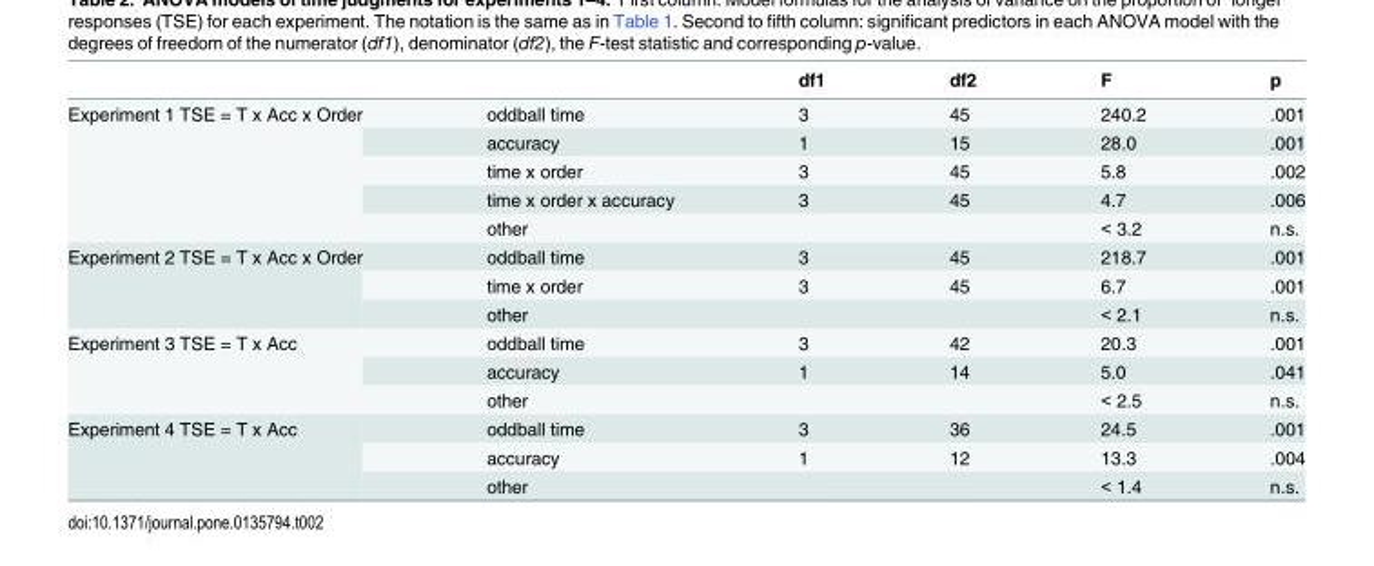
<table><thead><tr><td></td><td></td><td>df1</td><td>df2</td><td>F</td><td>p</td></tr></thead><tbody><tr><td rowspan="5">Experiment 1 TSE = T x Acc x Order</td><td>oddball time</td><td>3</td><td>45</td><td>240.2</td><td>.001</td></tr><tr><td>accuracy</td><td>1</td><td>15</td><td>28.0</td><td>.001</td></tr><tr><td>time x order</td><td>3</td><td>45</td><td>5.8</td><td>.002</td></tr><tr><td>time x order x accuracy</td><td>3</td><td>45</td><td>4.7</td><td>.006</td></tr><tr><td>other</td><td></td><td></td><td>&lt; 3.2</td><td>n.s.</td></tr><tr><td rowspan="3">Experiment 2 TSE = T x Acc x Order</td><td>oddball time</td><td>3</td><td>45</td><td>218.7</td><td>.001</td></tr><tr><td>time x order</td><td>3</td><td>45</td><td>6.7</td><td>.001</td></tr><tr><td>other</td><td></td><td></td><td>&lt; 2.1</td><td>n.s.</td></tr><tr><td rowspan="3">Experiment 3 TSE = T x Acc</td><td>oddball time</td><td>3</td><td>42</td><td>20.3</td><td>.001</td></tr><tr><td>accuracy</td><td>1</td><td>14</td><td>5.0</td><td>.041</td></tr><tr><td>other</td><td></td><td></td><td>&lt; 2.5</td><td>n.s.</td></tr><tr><td rowspan="3">Experiment 4 TSE = T x Acc</td><td>oddball time</td><td>3</td><td>36</td><td>24.5</td><td>.001</td></tr><tr><td>accuracy</td><td>1</td><td>12</td><td>13.3</td><td>.004</td></tr><tr><td>other</td><td></td><td></td><td>&lt; 1.4</td><td>n.s.</td></tr></tbody></table>